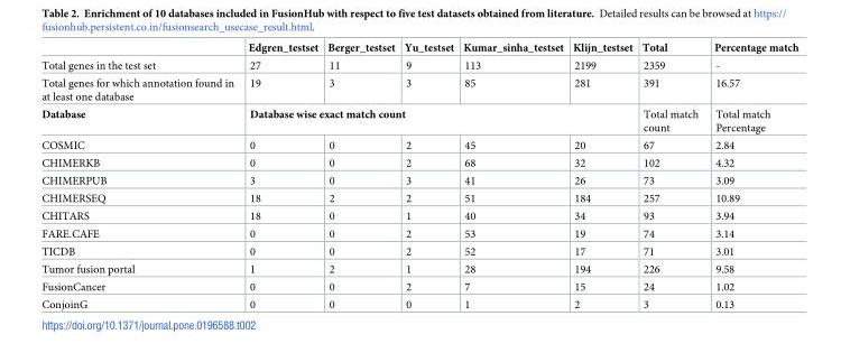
<table><thead><tr><td></td><td>Edgren_testset</td><td>Berger_testset</td><td>Yu_testset</td><td>Kumar_sinha_testset</td><td>Klijn_testset</td><td>Total</td><td>Percentage match</td></tr></thead><tbody><tr><td>Total genes in the test set</td><td>27</td><td>11</td><td>9</td><td>113</td><td>2199</td><td>2359</td><td>-</td></tr><tr><td>Total genes for which annotation found in at least one database</td><td>19</td><td>3</td><td>3</td><td>85</td><td>281</td><td>391</td><td>16.57</td></tr><tr><td>Database</td><td colspan="5">Database wise exact match count</td><td>Total match count</td><td>Total match Percentage</td></tr><tr><td>COSMIC</td><td>0</td><td>0</td><td>2</td><td>45</td><td>20</td><td>67</td><td>2.84</td></tr><tr><td>CHIMERKB</td><td>0</td><td>0</td><td>2</td><td>68</td><td>32</td><td>102</td><td>4.32</td></tr><tr><td>CHIMERPUB</td><td>3</td><td>0</td><td>3</td><td>41</td><td>26</td><td>73</td><td>3.09</td></tr><tr><td>CHIMERSEQ</td><td>18</td><td>2</td><td>2</td><td>51</td><td>184</td><td>257</td><td>10.89</td></tr><tr><td>CHITARS</td><td>18</td><td>0</td><td>1</td><td>40</td><td>34</td><td>93</td><td>3.94</td></tr><tr><td>FARE.CAFE</td><td>0</td><td>0</td><td>2</td><td>53</td><td>19</td><td>74</td><td>3.14</td></tr><tr><td>TICDB</td><td>0</td><td>0</td><td>2</td><td>52</td><td>17</td><td>71</td><td>3.01</td></tr><tr><td>Tumor fusion portal</td><td>1</td><td>2</td><td>1</td><td>28</td><td>194</td><td>226</td><td>9.58</td></tr><tr><td>FusionCancer</td><td>0</td><td>0</td><td>2</td><td>7</td><td>15</td><td>24</td><td>1.02</td></tr><tr><td>ConjoinG</td><td>0</td><td>0</td><td>0</td><td>1</td><td>2</td><td>3</td><td>0.13</td></tr></tbody></table>